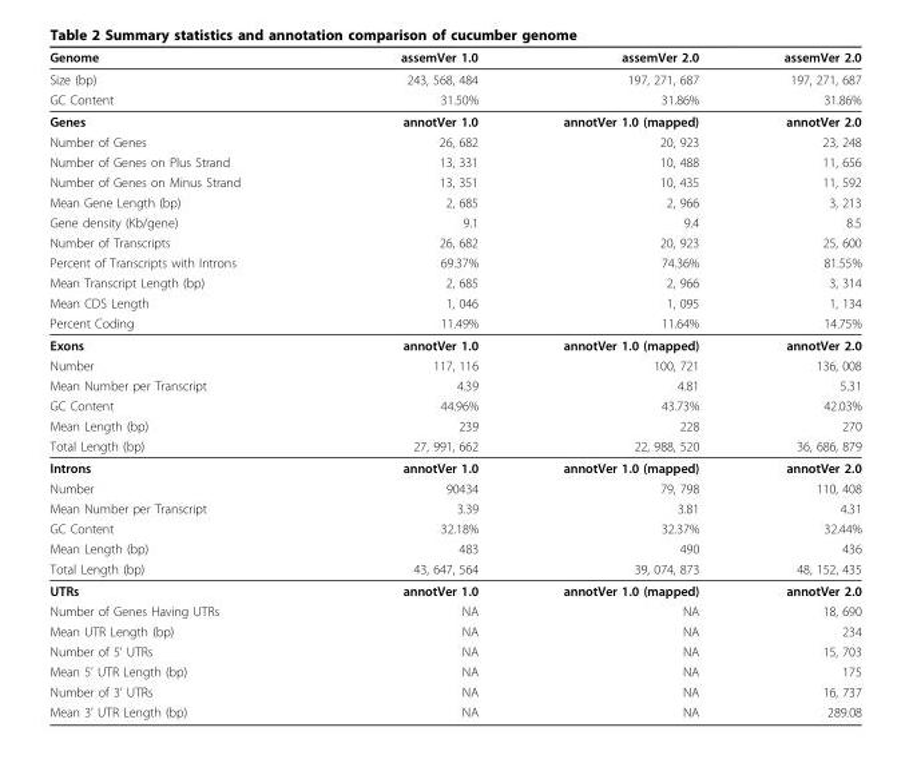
<table><thead><tr><td>Genome</td><td>assemVer 1.0</td><td>assemVer 2.0</td><td>assemVer 2.0</td></tr></thead><tbody><tr><td>Size (bp)</td><td>243, 568, 484</td><td>197, 271, 687</td><td>197, 271, 687</td></tr><tr><td>GC Content</td><td>31.50%</td><td>31.86%</td><td>31.86%</td></tr><tr><td>Genes</td><td>annotVer 1.0</td><td>annotVer 1.0 (mapped)</td><td>annotVer 2.0</td></tr><tr><td>Number of Genes</td><td>26, 682</td><td>20, 923</td><td>23, 248</td></tr><tr><td>Number of Genes on Plus Strand</td><td>13, 331</td><td>10, 488</td><td>11, 656</td></tr><tr><td>Number of Genes on Minus Strand</td><td>13, 351</td><td>10, 435</td><td>11, 592</td></tr><tr><td>Mean Gene Length (bp)</td><td>2, 685</td><td>2, 966</td><td>3, 213</td></tr><tr><td>Gene density (Kb/gene)</td><td>9.1</td><td>9.4</td><td>8.5</td></tr><tr><td>Number of Transcripts</td><td>26, 682</td><td>20, 923</td><td>25, 600</td></tr><tr><td>Percent of Transcripts with Introns</td><td>69.37%</td><td>74.36%</td><td>81.55%</td></tr><tr><td>Mean Transcript Length (bp)</td><td>2, 685</td><td>2, 966</td><td>3, 314</td></tr><tr><td>Mean CDS Length</td><td>1, 046</td><td>1, 095</td><td>1, 134</td></tr><tr><td>Percent Coding</td><td>11.49%</td><td>11.64%</td><td>14.75%</td></tr><tr><td>Exons</td><td>annotVer 1.0</td><td>annotVer 1.0 (mapped)</td><td>annotVer 2.0</td></tr><tr><td>Number</td><td>117, 116</td><td>100, 721</td><td>136, 008</td></tr><tr><td>Mean Number per Transcript</td><td>4.39</td><td>4.81</td><td>5.31</td></tr><tr><td>GC Content</td><td>44.96%</td><td>43.73%</td><td>42.03%</td></tr><tr><td>Mean Length (bp)</td><td>239</td><td>228</td><td>270</td></tr><tr><td>Total Length (bp)</td><td>27, 991, 662</td><td>22, 988, 520</td><td>36, 686, 879</td></tr><tr><td>Introns</td><td>annotVer 1.0</td><td>annotVer 1.0 (mapped)</td><td>annotVer 2.0</td></tr><tr><td>Number</td><td>90434</td><td>79, 798</td><td>110, 408</td></tr><tr><td>Mean Number per Transcript</td><td>3.39</td><td>3.81</td><td>4.31</td></tr><tr><td>GC Content</td><td>32.18%</td><td>32.37%</td><td>32.44%</td></tr><tr><td>Mean Length (bp)</td><td>483</td><td>490</td><td>436</td></tr><tr><td>Total Length (bp)</td><td>43, 647, 564</td><td>39, 074, 873</td><td>48, 152, 435</td></tr><tr><td>UTRs</td><td>annotVer 1.0</td><td>annotVer 1.0 (mapped)</td><td>annotVer 2.0</td></tr><tr><td>Number of Genes Having UTRs</td><td>NA</td><td>NA</td><td>18, 690</td></tr><tr><td>Mean UTR Length (bp)</td><td>NA</td><td>NA</td><td>234</td></tr><tr><td>Number of 5’ UTRs</td><td>NA</td><td>NA</td><td>15, 703</td></tr><tr><td>Mean 5’ UTR Length (bp)</td><td>NA</td><td>NA</td><td>175</td></tr><tr><td>Number of 3’ UTRs</td><td>NA</td><td>NA</td><td>16, 737</td></tr><tr><td>Mean 3’ UTR Length (bp)</td><td>NA</td><td>NA</td><td>289.08</td></tr></tbody></table>